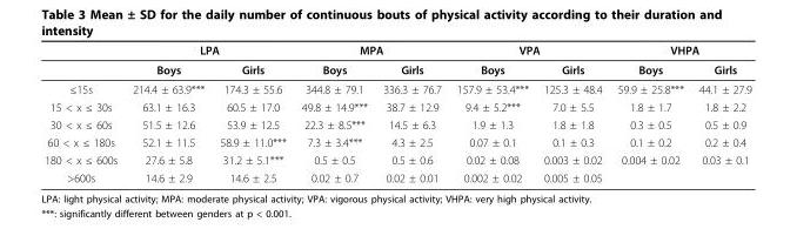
<table><thead><tr><td rowspan="2"></td><td colspan="2">LPA</td><td colspan="2">MPA</td><td colspan="2">VPA</td><td colspan="2">VHPA</td></tr><tr><td>Boys</td><td>Girls</td><td>Boys</td><td>Girls</td><td>Boys</td><td>Girls</td><td>Boys</td><td>Girls</td></tr></thead><tbody><tr><td>≤15s</td><td>214.4 ± 63.9***</td><td>174.3 ± 55.6</td><td>344.8 ± 79.1</td><td>336.3 ± 76.7</td><td>157.9 ± 53.4***</td><td>125.3 ± 48.4</td><td>59.9 ± 25.8***</td><td>44.1 ± 27.9</td></tr><tr><td>15 &lt; x ≤ 30s</td><td>63.1 ± 16.3</td><td>60.5 ± 17.0</td><td>49.8 ± 14.9***</td><td>38.7 ± 12.9</td><td>9.4 ± 5.2***</td><td>7.0 ± 5.5</td><td>1.8 ± 1.7</td><td>1.8 ± 2.2</td></tr><tr><td>30 &lt; x ≤ 60s</td><td>51.5 ± 12.6</td><td>53.9 ± 12.5</td><td>22.3 ± 8.5***</td><td>14.5 ± 6.3</td><td>1.9 ± 1.3</td><td>1.8 ± 1.8</td><td>0.3 ± 0.5</td><td>0.5 ± 0.9</td></tr><tr><td>60 &lt; x ≤ 180s</td><td>52.1 ± 11.5</td><td>58.9 ± 11.0***</td><td>7.3 ± 3.4***</td><td>4.3 ± 2.5</td><td>0.07 ± 0.1</td><td>0.1 ± 0.3</td><td>0.1 ± 0.2</td><td>0.2 ± 0.4</td></tr><tr><td>180 &lt; x ≤ 600s</td><td>27.6 ± 5.8</td><td>31.2 ± 5.1***</td><td>0.5 ± 0.5</td><td>0.5 ± 0.6</td><td>0.02 ± 0.08</td><td>0.003 ± 0.02</td><td>0.004 ± 0.02</td><td>0.03 ± 0.1</td></tr><tr><td>&gt;600s</td><td>14.6 ± 2.9</td><td>14.6 ± 2.5</td><td>0.02 ± 0.7</td><td>0.02 ± 0.01</td><td>0.002 ± 0.02</td><td>0.005 ± 0.05</td><td></td><td></td></tr></tbody></table>